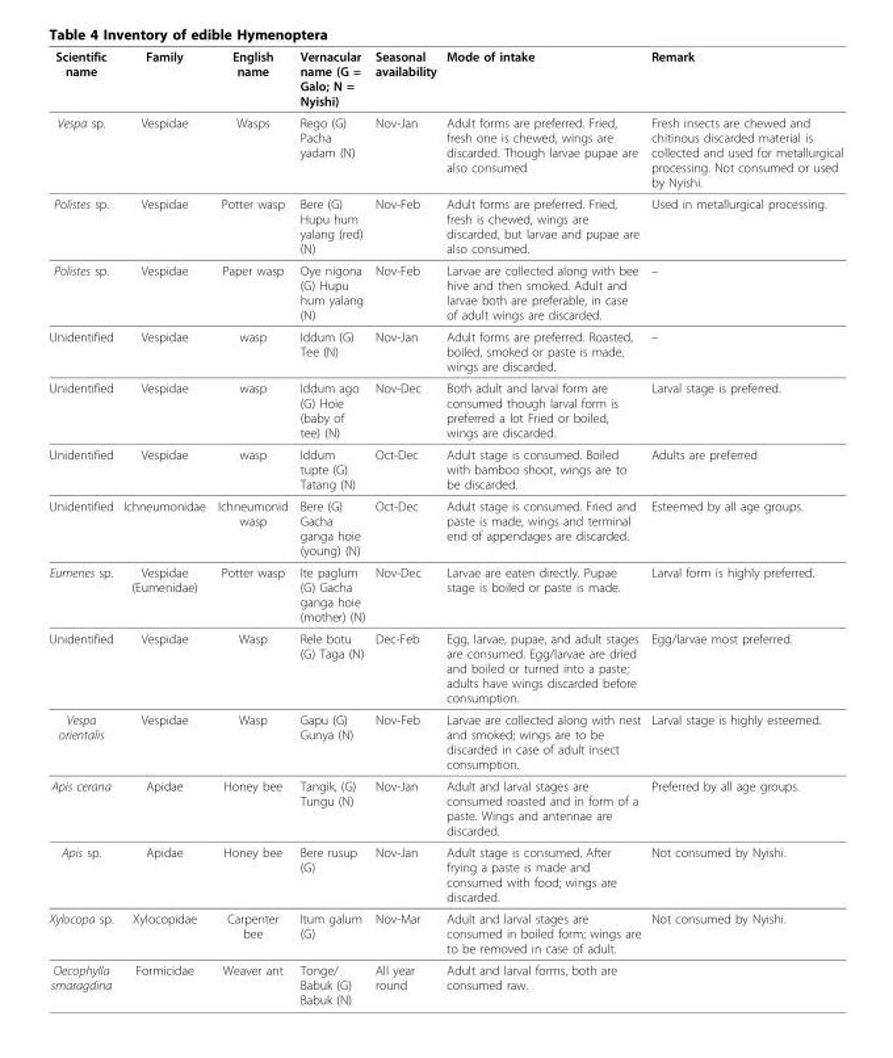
<table><thead><tr><td>Scientific name</td><td>Family</td><td>English name</td><td>Vernacular name (G = Galo; N = Nyishi)</td><td>Seasonal availability</td><td>Mode of intake</td><td>Remark</td></tr></thead><tbody><tr><td>Vespa sp.</td><td>Vespidae</td><td>Wasps</td><td>Rego (G) Pacha yadam (N)</td><td>Nov-Jan</td><td>Adult forms are preferred. Fried, fresh one is chewed, wings are discarded. Though larvae pupae are also consumed</td><td>Fresh insects are chewed and chitinous discarded material is collected and used for metallurgical processing. Not consumed or used by Nyishi.</td></tr><tr><td>Polistes sp.</td><td>Vespidae</td><td>Potter wasp</td><td>Bere (G) Hupu hum yalang (red) (N)</td><td>Nov-Feb</td><td>Adult forms are preferred. Fried, fresh is chewed, wings are discarded, but larvae and pupae are also consumed.</td><td>Used in metallurgical processing.</td></tr><tr><td>Polistes sp.</td><td>Vespidae</td><td>Paper wasp</td><td>Oye nigona (G) Hupu hum yalang (N)</td><td>Nov-Feb</td><td>Larvae are collected along with bee hive and then smoked. Adult and larvae both are preferable, in case of adult wings are discarded.</td><td>–</td></tr><tr><td>Unidentified</td><td>Vespidae</td><td>wasp</td><td>Iddum (G) Tee (N)</td><td>Nov-Jan</td><td>Adult forms are preferred. Roasted, boiled, smoked or paste is made, wings are discarded.</td><td>–</td></tr><tr><td>Unidentified</td><td>Vespidae</td><td>wasp</td><td>Iddum ago (G) Hoie (baby of tee) (N)</td><td>Nov-Dec</td><td>Both adult and larval form are consumed though larval form is preferred a lot Fried or boiled, wings are discarded.</td><td>Larval stage is preferred.</td></tr><tr><td>Unidentified</td><td>Vespidae</td><td>wasp</td><td>Iddum tupte (G) Tatang (N)</td><td>Oct-Dec</td><td>Adult stage is consumed. Boiled with bamboo shoot, wings are to be discarded.</td><td>Adults are preferred</td></tr><tr><td>Unidentified</td><td>Ichneumonidae</td><td>Ichneumonid wasp</td><td>Bere (G) Gacha ganga hoie (young) (N)</td><td>Oct-Dec</td><td>Adult stage is consumed. Fried and paste is made, wings and terminal end of appendages are discarded.</td><td>Esteemed by all age groups.</td></tr><tr><td>Eumenes sp.</td><td>Vespidae (Eumenidae)</td><td>Potter wasp</td><td>Ite paglum (G) Gacha ganga hoie (mother) (N)</td><td>Nov-Dec</td><td>Larvae are eaten directly. Pupae stage is boiled or paste is made.</td><td>Larval form is highly preferred.</td></tr><tr><td>Unidentified</td><td>Vespidae</td><td>Wasp</td><td>Rele botu (G) Taga (N)</td><td>Dec-Feb</td><td>Egg, larvae, pupae, and adult stages are consumed. Egg/larvae are dried and boiled or turned into a paste; adults have wings discarded before consumption.</td><td>Egg/larvae most preferred.</td></tr><tr><td>Vespa orientalis</td><td>Vespidae</td><td>Wasp</td><td>Gapu (G) Gunya (N)</td><td>Nov-Feb</td><td>Larvae are collected along with nest and smoked; wings are to be discarded in case of adult insect consumption.</td><td>Larval stage is highly esteemed.</td></tr><tr><td>Apis cerana</td><td>Apidae</td><td>Honey bee</td><td>Tangik, (G) Tungu (N)</td><td>Nov-Jan</td><td>Adult and larval stages are consumed roasted and in form of a paste. Wings and antennae are discarded.</td><td>Preferred by all age groups.</td></tr><tr><td>Apis sp.</td><td>Apidae</td><td>Honey bee</td><td>Bere rusup (G)</td><td>Nov-Jan</td><td>Adult stage is consumed. After frying a paste is made and consumed with food; wings are discarded.</td><td>Not consumed by Nyishi.</td></tr><tr><td>Xylocopa sp.</td><td>Xylocopidae</td><td>Carpenter bee</td><td>Itum galum (G)</td><td>Nov-Mar</td><td>Adult and larval stages are consumed in boiled form; wings are to be removed in case of adult.</td><td>Not consumed by Nyishi.</td></tr><tr><td>Oecophylla smaragdina</td><td>Formicidae</td><td>Weaver ant</td><td>Tonge/ Babuk (G) Babuk (N)</td><td>All year round</td><td>Adult and larval forms, both are consumed raw.</td><td></td></tr></tbody></table>